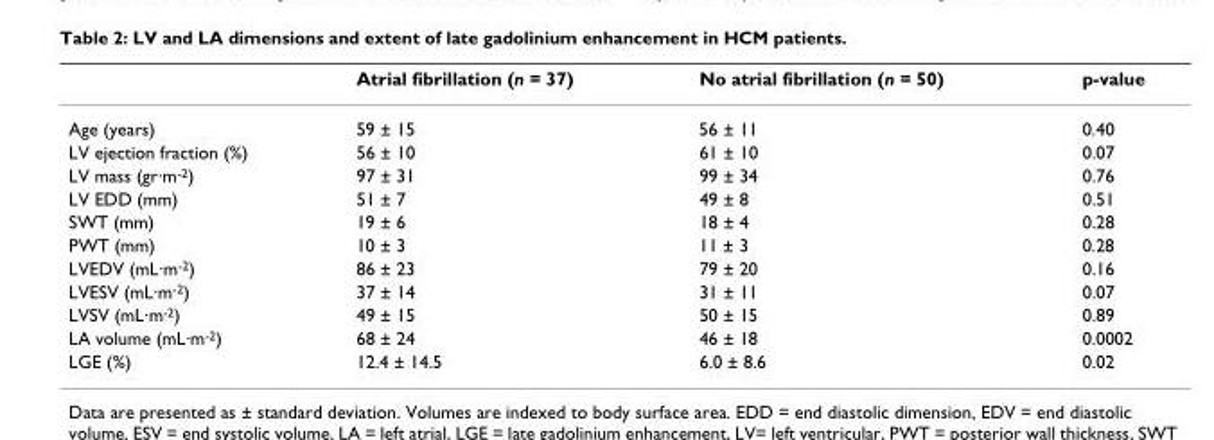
<table><thead><tr><td></td><td>Atrial fibrillation (n = 37)</td><td>No atrial fibrillation (n = 50)</td><td>p-value</td></tr></thead><tbody><tr><td>Age (years)</td><td>59 ± 15</td><td>56 ± 11</td><td>0.40</td></tr><tr><td>LV ejection fraction (%)</td><td>56 ± 10</td><td>61 ± 10</td><td>0.07</td></tr><tr><td>LV mass (gr·m<sup>-2</sup>)</td><td>97 ± 31</td><td>99 ± 34</td><td>0.76</td></tr><tr><td>LV EDD (mm)</td><td>51 ± 7</td><td>49 ± 8</td><td>0.51</td></tr><tr><td>SWT (mm)</td><td>19 ± 6</td><td>18 ± 4</td><td>0.28</td></tr><tr><td>PWT (mm)</td><td>10 ± 3</td><td>11 ± 3</td><td>0.28</td></tr><tr><td>LVEDV (mL·m<sup>-2</sup>)</td><td>86 ± 23</td><td>79 ± 20</td><td>0.16</td></tr><tr><td>LVESV (mL·m<sup>-2</sup>)</td><td>37 ± 14</td><td>31 ± 11</td><td>0.07</td></tr><tr><td>LVSV (mL·m<sup>-2</sup>)</td><td>49 ± 15</td><td>50 ± 15</td><td>0.89</td></tr><tr><td>LA volume (mL·m<sup>-2</sup>)</td><td>68 ± 24</td><td>46 ± 18</td><td>0.0002</td></tr><tr><td>LGE (%)</td><td>12.4 ± 14.5</td><td>6.0 ± 8.6</td><td>0.02</td></tr></tbody></table>